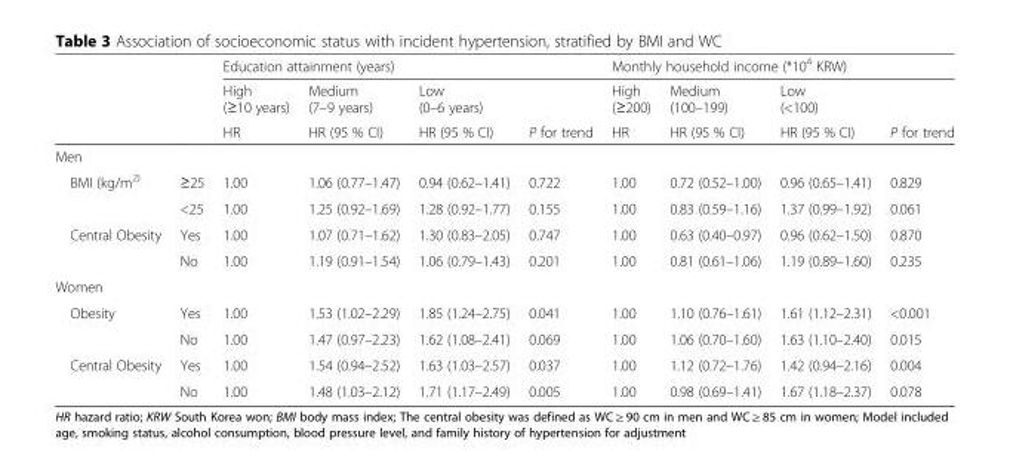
<table><thead><tr><td rowspan="3"></td><td rowspan="3"></td><td colspan="4">Education attainment (years)</td><td colspan="4">Monthly household income (*10<sup>4</sup> KRW)</td></tr><tr><td rowspan="2">High (≥10 years) HR</td><td rowspan="2">Medium (7–9 years) HR (95 % CI)</td><td rowspan="2">Low (0–6 years) HR (95 % CI)</td><td rowspan="2">P for trend</td><td rowspan="2">High (≥200) HR</td><td rowspan="2">Medium (100–199) HR (95 % CI)</td><td rowspan="2">Low (&lt;100) HR (95 % CI)</td><td rowspan="2">P for trend</td></tr><tr></tr></thead><tbody><tr><td colspan="10">Men</td></tr><tr><td rowspan="2">BMI (kg/m<sup>2)</sup></td><td>≥25</td><td>1.00</td><td>1.06 (0.77–1.47)</td><td>0.94 (0.62–1.41)</td><td>0.722</td><td>1.00</td><td>0.72 (0.52–1.00)</td><td>0.96 (0.65–1.41)</td><td>0.829</td></tr><tr><td>&lt;25</td><td>1.00</td><td>1.25 (0.92–1.69)</td><td>1.28 (0.92–1.77)</td><td>0.155</td><td>1.00</td><td>0.83 (0.59–1.16)</td><td>1.37 (0.99–1.92)</td><td>0.061</td></tr><tr><td rowspan="2">Central Obesity</td><td>Yes</td><td>1.00</td><td>1.07 (0.71–1.62)</td><td>1.30 (0.83–2.05)</td><td>0.747</td><td>1.00</td><td>0.63 (0.40–0.97)</td><td>0.96 (0.62–1.50)</td><td>0.870</td></tr><tr><td>No</td><td>1.00</td><td>1.19 (0.91–1.54)</td><td>1.06 (0.79–1.43)</td><td>0.201</td><td>1.00</td><td>0.81 (0.61–1.06)</td><td>1.19 (0.89–1.60)</td><td>0.235</td></tr><tr><td colspan="10">Women</td></tr><tr><td rowspan="2">Obesity</td><td>Yes</td><td>1.00</td><td>1.53 (1.02–2.29)</td><td>1.85 (1.24–2.75)</td><td>0.041</td><td>1.00</td><td>1.10 (0.76–1.61)</td><td>1.61 (1.12–2.31)</td><td>&lt;0.001</td></tr><tr><td>No</td><td>1.00</td><td>1.47 (0.97–2.23)</td><td>1.62 (1.08–2.41)</td><td>0.069</td><td>1.00</td><td>1.06 (0.70–1.60)</td><td>1.63 (1.10–2.40)</td><td>0.015</td></tr><tr><td rowspan="2">Central Obesity</td><td>Yes</td><td>1.00</td><td>1.54 (0.94–2.52)</td><td>1.63 (1.03–2.57)</td><td>0.037</td><td>1.00</td><td>1.12 (0.72–1.76)</td><td>1.42 (0.94–2.16)</td><td>0.004</td></tr><tr><td>No</td><td>1.00</td><td>1.48 (1.03–2.12)</td><td>1.71 (1.17–2.49)</td><td>0.005</td><td>1.00</td><td>0.98 (0.69–1.41)</td><td>1.67 (1.18–2.37)</td><td>0.078</td></tr></tbody></table>